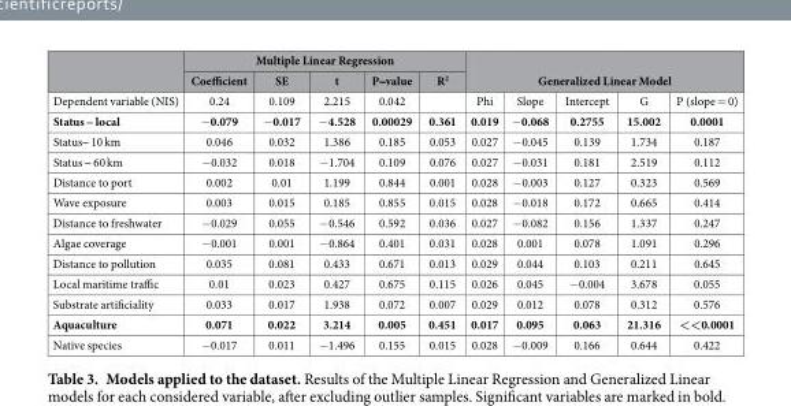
<table><thead><tr><td rowspan="2"></td><td colspan="5">Multiple Linear Regression</td><td></td><td></td><td></td><td></td><td></td></tr><tr><td>Coefficient</td><td>SE</td><td>t</td><td>P‒value</td><td>R<sup>2</sup></td><td colspan="5">Generalized Linear Model</td></tr></thead><tbody><tr><td>Dependent variable (NIS)</td><td>0.24</td><td>0.109</td><td>2.215</td><td>0.042</td><td></td><td>Phi</td><td>Slope</td><td>Intercept</td><td>G</td><td>P (slope = 0)</td></tr><tr><td>Status ‒ local</td><td>− 0.079</td><td>− 0.017</td><td>− 4.528</td><td>0.00029</td><td>0.361</td><td>0.019</td><td>− 0.068</td><td>0.2755</td><td>15.002</td><td>0.0001</td></tr><tr><td>Status‒ 10 km</td><td>0.046</td><td>0.032</td><td>1.386</td><td>0.185</td><td>0.053</td><td>0.027</td><td>− 0.045</td><td>0.139</td><td>1.734</td><td>0.187</td></tr><tr><td>Status ‒ 60 km</td><td>− 0.032</td><td>0.018</td><td>− 1.704</td><td>0.109</td><td>0.076</td><td>0.027</td><td>− 0.031</td><td>0.181</td><td>2.519</td><td>0.112</td></tr><tr><td>Distance to port</td><td>0.002</td><td>0.01</td><td>1.199</td><td>0.844</td><td>0.001</td><td>0.028</td><td>− 0.003</td><td>0.127</td><td>0.323</td><td>0.569</td></tr><tr><td>Wave exposure</td><td>0.003</td><td>0.015</td><td>0.185</td><td>0.855</td><td>0.015</td><td>0.028</td><td>− 0.018</td><td>0.172</td><td>0.665</td><td>0.414</td></tr><tr><td>Distance to freshwater</td><td>− 0.029</td><td>0.055</td><td>− 0.546</td><td>0.592</td><td>0.036</td><td>0.027</td><td>− 0.082</td><td>0.156</td><td>1.337</td><td>0.247</td></tr><tr><td>Algae coverage</td><td>− 0.001</td><td>0.001</td><td>− 0.864</td><td>0.401</td><td>0.031</td><td>0.028</td><td>0.001</td><td>0.078</td><td>1.091</td><td>0.296</td></tr><tr><td>Distance to pollution</td><td>0.035</td><td>0.081</td><td>0.433</td><td>0.671</td><td>0.013</td><td>0.029</td><td>0.044</td><td>0.103</td><td>0.211</td><td>0.645</td></tr><tr><td>Local maritime traffic</td><td>0.01</td><td>0.023</td><td>0.427</td><td>0.675</td><td>0.115</td><td>0.026</td><td>0.045</td><td>− 0.004</td><td>3.678</td><td>0.055</td></tr><tr><td>Substrate artificiality</td><td>0.033</td><td>0.017</td><td>1.938</td><td>0.072</td><td>0.007</td><td>0.029</td><td>0.012</td><td>0.078</td><td>0.312</td><td>0.576</td></tr><tr><td>Aquaculture</td><td>0.071</td><td>0.022</td><td>3.214</td><td>0.005</td><td>0.451</td><td>0.017</td><td>0.095</td><td>0.063</td><td>21.316</td><td>&lt;&lt;0.0001</td></tr><tr><td>Native species</td><td>− 0.017</td><td>0.011</td><td>− 1.496</td><td>0.155</td><td>0.015</td><td>0.028</td><td>− 0.009</td><td>0.166</td><td>0.644</td><td>0.422</td></tr></tbody></table>